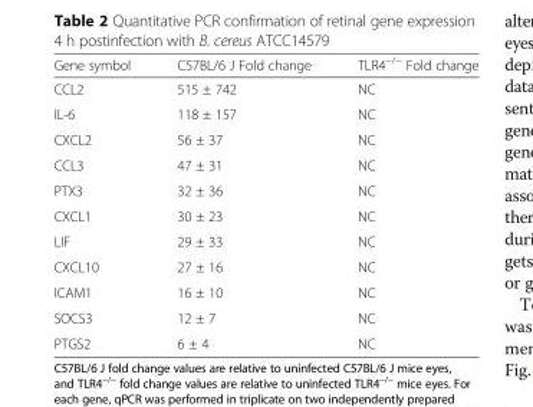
<table><thead><tr><td>Gene symbol</td><td>C57BL/6 J Fold change</td><td>TLR4<sup>−/−</sup> Fold change</td></tr></thead><tbody><tr><td>CCL2</td><td>515 ± 742</td><td>NC</td></tr><tr><td>IL-6</td><td>118 ± 157</td><td>NC</td></tr><tr><td>CXCL2</td><td>56 ± 37</td><td>NC</td></tr><tr><td>CCL3</td><td>47 ± 31</td><td>NC</td></tr><tr><td>PTX3</td><td>32 ± 36</td><td>NC</td></tr><tr><td>CXCL1</td><td>30 ± 23</td><td>NC</td></tr><tr><td>LIF</td><td>29 ± 33</td><td>NC</td></tr><tr><td>CXCL10</td><td>27 ± 16</td><td>NC</td></tr><tr><td>ICAM1</td><td>16 ± 10</td><td>NC</td></tr><tr><td>SOCS3</td><td>12 ± 7</td><td>NC</td></tr><tr><td>PTGS2</td><td>6 ± 4</td><td>NC</td></tr></tbody></table>